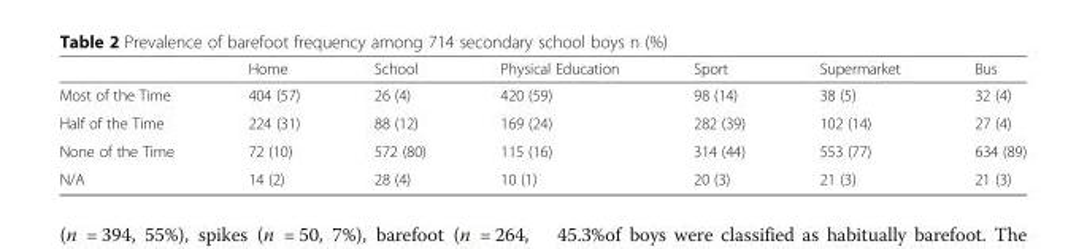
<table><thead><tr><td></td><td>Home</td><td>School</td><td>Physical Education</td><td>Sport</td><td>Supermarket</td><td>Bus</td></tr></thead><tbody><tr><td>Most of the Time</td><td>404 (57)</td><td>26 (4)</td><td>420 (59)</td><td>98 (14)</td><td>38 (5)</td><td>32 (4)</td></tr><tr><td>Half of the Time</td><td>224 (31)</td><td>88 (12)</td><td>169 (24)</td><td>282 (39)</td><td>102 (14)</td><td>27 (4)</td></tr><tr><td>None of the Time</td><td>72 (10)</td><td>572 (80)</td><td>115 (16)</td><td>314 (44)</td><td>553 (77)</td><td>634 (89)</td></tr><tr><td>N/A</td><td>14 (2)</td><td>28 (4)</td><td>10 (1)</td><td>20 (3)</td><td>21 (3)</td><td>21 (3)</td></tr></tbody></table>